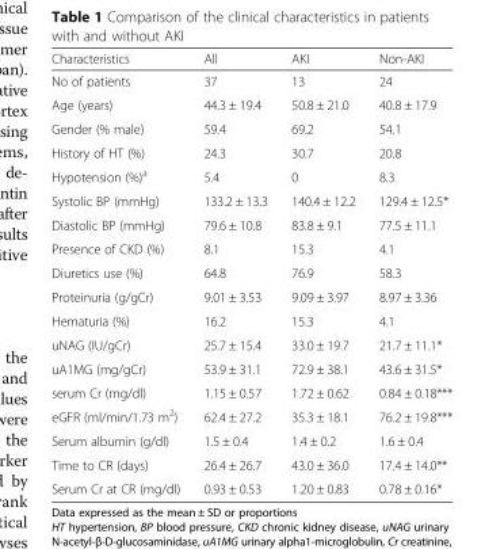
<table><thead><tr><td>Characteristics</td><td>All</td><td>AKI</td><td>Non-AKI</td></tr></thead><tbody><tr><td>No of patients</td><td>37</td><td>13</td><td>24</td></tr><tr><td>Age (years)</td><td>44.3 ± 19.4</td><td>50.8 ± 21.0</td><td>40.8 ± 17.9</td></tr><tr><td>Gender (% male)</td><td>59.4</td><td>69.2</td><td>54.1</td></tr><tr><td>History of HT (%)</td><td>24.3</td><td>30.7</td><td>20.8</td></tr><tr><td>Hypotension (%)<sup>a</sup></td><td>5.4</td><td>0</td><td>8.3</td></tr><tr><td>Systolic BP (mmHg)</td><td>133.2 ± 13.3</td><td>140.4 ± 12.2</td><td>129.4 ± 12.5*</td></tr><tr><td>Diastolic BP (mmHg)</td><td>79.6 ± 10.8</td><td>83.8 ± 9.1</td><td>77.5 ± 11.1</td></tr><tr><td>Presence of CKD (%)</td><td>8.1</td><td>15.3</td><td>4.1</td></tr><tr><td>Diuretics use (%)</td><td>64.8</td><td>76.9</td><td>58.3</td></tr><tr><td>Proteinuria (g/gCr)</td><td>9.01 ± 3.53</td><td>9.09 ± 3.97</td><td>8.97 ± 3.36</td></tr><tr><td>Hematuria (%)</td><td>16.2</td><td>15.3</td><td>4.1</td></tr><tr><td>uNAG (IU/gCr)</td><td>25.7 ± 15.4</td><td>33.0 ± 19.7</td><td>21.7 ± 11.1*</td></tr><tr><td>uA1MG (mg/gCr)</td><td>53.9 ± 31.1</td><td>72.9 ± 38.1</td><td>43.6 ± 31.5*</td></tr><tr><td>serum Cr (mg/dl)</td><td>1.15 ± 0.57</td><td>1.72 ± 0.62</td><td>0.84 ± 0.18***</td></tr><tr><td>eGFR (ml/min/1.73 m<sup>2</sup>)</td><td>62.4 ± 27.2</td><td>35.3 ± 18.1</td><td>76.2 ± 19.8***</td></tr><tr><td>Serum albumin (g/dl)</td><td>1.5 ± 0.4</td><td>1.4 ± 0.2</td><td>1.6 ± 0.4</td></tr><tr><td>Time to CR (days)</td><td>26.4 ± 26.7</td><td>43.0 ± 36.0</td><td>17.4 ± 14.0**</td></tr><tr><td>Serum Cr at CR (mg/dl)</td><td>0.93 ± 0.53</td><td>1.20 ± 0.83</td><td>0.78 ± 0.16*</td></tr></tbody></table>